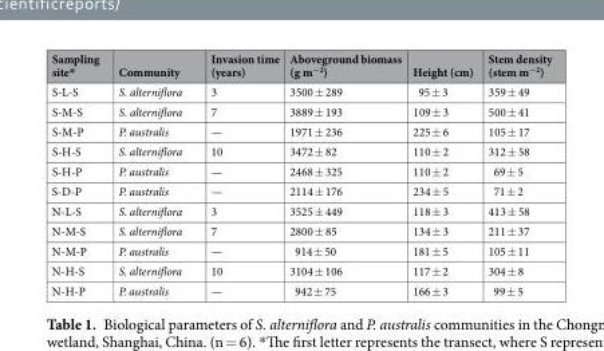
<table><thead><tr><td>Sampling site*</td><td>Community</td><td>Invasion time (years)</td><td>Aboveground biomass (g m<sup>−2</sup>)</td><td>Height (cm)</td><td>Stem density (stem m<sup>−2</sup>)</td></tr></thead><tbody><tr><td>S-L-S</td><td>S. alterniflora</td><td>3</td><td>3500 ± 289</td><td>95 ± 3</td><td>359 ± 49</td></tr><tr><td>S-M-S</td><td>S. alterniflora</td><td>7</td><td>3889 ± 193</td><td>109 ± 3</td><td>500 ± 41</td></tr><tr><td>S-M-P</td><td>P. australis</td><td>—</td><td>1971 ± 236</td><td>225 ± 6</td><td>105 ± 17</td></tr><tr><td>S-H-S</td><td>S. alterniflora</td><td>10</td><td>3472 ± 82</td><td>110 ± 2</td><td>312 ± 58</td></tr><tr><td>S-H-P</td><td>P. australis</td><td>—</td><td>2468 ± 325</td><td>110 ± 2</td><td>69 ± 5</td></tr><tr><td>S-D-P</td><td>P. australis</td><td>—</td><td>2114 ± 176</td><td>234 ± 5</td><td>71 ± 2</td></tr><tr><td>N-L-S</td><td>S. alterniflora</td><td>3</td><td>3525 ± 449</td><td>118 ± 3</td><td>413 ± 58</td></tr><tr><td>N-M-S</td><td>S. alterniflora</td><td>7</td><td>2800 ± 85</td><td>134 ± 3</td><td>211 ± 37</td></tr><tr><td>N-M-P</td><td>P. australis</td><td>—</td><td>914 ± 50</td><td>181 ± 5</td><td>105 ± 11</td></tr><tr><td>N-H-S</td><td>S. alterniflora</td><td>10</td><td>3104 ± 106</td><td>117 ± 2</td><td>304 ± 8</td></tr><tr><td>N-H-P</td><td>P. australis</td><td>—</td><td>942 ± 75</td><td>166 ± 3</td><td>99 ± 5</td></tr></tbody></table>